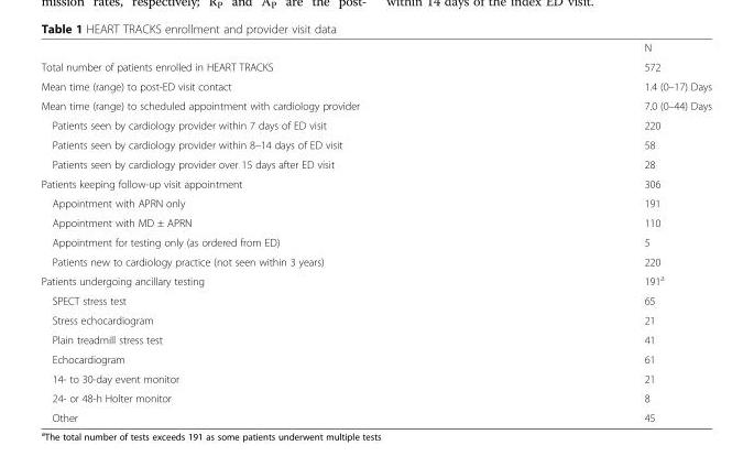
<table><thead><tr><td></td><td>N</td></tr></thead><tbody><tr><td>Total number of patients enrolled in HEART TRACKS</td><td>572</td></tr><tr><td>Mean time (range) to post-ED visit contact</td><td>1.4 (0–17) Days</td></tr><tr><td>Mean time (range) to scheduled appointment with cardiology provider</td><td>7.0 (0–44) Days</td></tr><tr><td>Patients seen by cardiology provider within 7 days of ED visit</td><td>220</td></tr><tr><td>Patients seen by cardiology provider within 8–14 days of ED visit</td><td>58</td></tr><tr><td>Patients seen by cardiology provider over 15 days after ED visit</td><td>28</td></tr><tr><td>Patients keeping follow-up visit appointment</td><td>306</td></tr><tr><td>Appointment with APRN only</td><td>191</td></tr><tr><td>Appointment with MD ± APRN</td><td>110</td></tr><tr><td>Appointment for testing only (as ordered from ED)</td><td>5</td></tr><tr><td>Patients new to cardiology practice (not seen within 3 years)</td><td>220</td></tr><tr><td>Patients undergoing ancillary testing</td><td>191<sup>a</sup></td></tr><tr><td>SPECT stress test</td><td>65</td></tr><tr><td>Stress echocardiogram</td><td>21</td></tr><tr><td>Plain treadmill stress test</td><td>41</td></tr><tr><td>Echocardiogram</td><td>61</td></tr><tr><td>14- to 30-day event monitor</td><td>21</td></tr><tr><td>24- or 48-h Holter monitor</td><td>8</td></tr><tr><td>Other</td><td>45</td></tr></tbody></table>